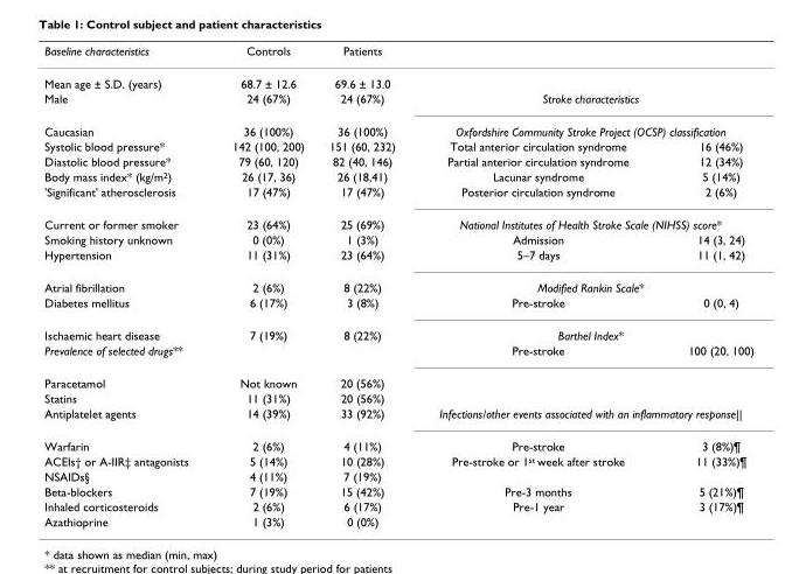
<table><thead><tr><td>Baseline characteristics</td><td>Controls</td><td>Patients</td><td></td><td></td></tr></thead><tbody><tr><td>Mean age ± S.D. (years)</td><td>68.7 ± 12.6</td><td>69.6 ± 13.0</td><td></td><td></td></tr><tr><td>Male</td><td>24 (67%)</td><td>24 (67%)</td><td colspan="2">Stroke characteristics</td></tr><tr><td>Caucasian</td><td>36 (100%)</td><td>36 (100%)</td><td colspan="2">Oxfordshire Community Stroke Project (OCSP) classification</td></tr><tr><td>Systolic blood pressure*</td><td>142 (100, 200)</td><td>151 (60, 232)</td><td>Total anterior circulation syndrome</td><td>16 (46%)</td></tr><tr><td>Diastolic blood pressure*</td><td>79 (60, 120)</td><td>82 (40, 146)</td><td>Partial anterior circulation syndrome</td><td>12 (34%)</td></tr><tr><td>Body mass index* (kg/m2)</td><td>26 (17, 36)</td><td>26 (18,41)</td><td>Lacunar syndrome</td><td>5 (14%)</td></tr><tr><td>&#x27;Significant&#x27; atherosclerosis</td><td>17 (47%)</td><td>17 (47%)</td><td>Posterior circulation syndrome</td><td>2 (6%)</td></tr><tr><td>Current or former smoker</td><td>23 (64%)</td><td>25 (69%)</td><td colspan="2">National Institutes of Health Stroke Scale (NIHSS) score*</td></tr><tr><td>Smoking history unknown</td><td>0 (0%)</td><td>1 (3%)</td><td>Admission</td><td>14 (3, 24)</td></tr><tr><td>Hypertension</td><td>11 (31%)</td><td>23 (64%)</td><td>5–7 days</td><td>11 (1, 42)</td></tr><tr><td>Atrial fibrillation</td><td>2 (6%)</td><td>8 (22%)</td><td colspan="2">Modified Rankin Scale*</td></tr><tr><td>Diabetes mellitus</td><td>6 (17%)</td><td>3 (8%)</td><td>Pre-stroke</td><td>0 (0, 4)</td></tr><tr><td>Ischaemic heart disease</td><td>7 (19%)</td><td>8 (22%)</td><td colspan="2">Barthel Index*</td></tr><tr><td>Prevalence of selected drugs**</td><td></td><td></td><td>Pre-stroke</td><td>100 (20, 100)</td></tr><tr><td>Paracetamol</td><td>Not known</td><td>20 (56%)</td><td></td><td></td></tr><tr><td>Statins</td><td>11 (31%)</td><td>20 (56%)</td><td></td><td></td></tr><tr><td>Antiplatelet agents</td><td>14 (39%)</td><td>33 (92%)</td><td colspan="2">Infections/other events associated with an inflammatory response||</td></tr><tr><td>Warfarin</td><td>2 (6%)</td><td>4 (11%)</td><td>Pre-stroke</td><td>3 (8%)¶</td></tr><tr><td>ACEIs† or A-IIR‡ antagonists</td><td>5 (14%)</td><td>10 (28%)</td><td>Pre-stroke or 1st week after stroke</td><td>11 (33%)¶</td></tr><tr><td>NSAIDs§</td><td>4 (11%)</td><td>7 (19%)</td><td></td><td></td></tr><tr><td>Beta-blockers</td><td>7 (19%)</td><td>15 (42%)</td><td>Pre-3 months</td><td>5 (21%)¶</td></tr><tr><td>Inhaled corticosteroids</td><td>2 (6%)</td><td>6 (17%)</td><td>Pre-1 year</td><td>3 (17%)¶</td></tr><tr><td>Azathioprine</td><td>1 (3%)</td><td>0 (0%)</td><td></td><td></td></tr></tbody></table>